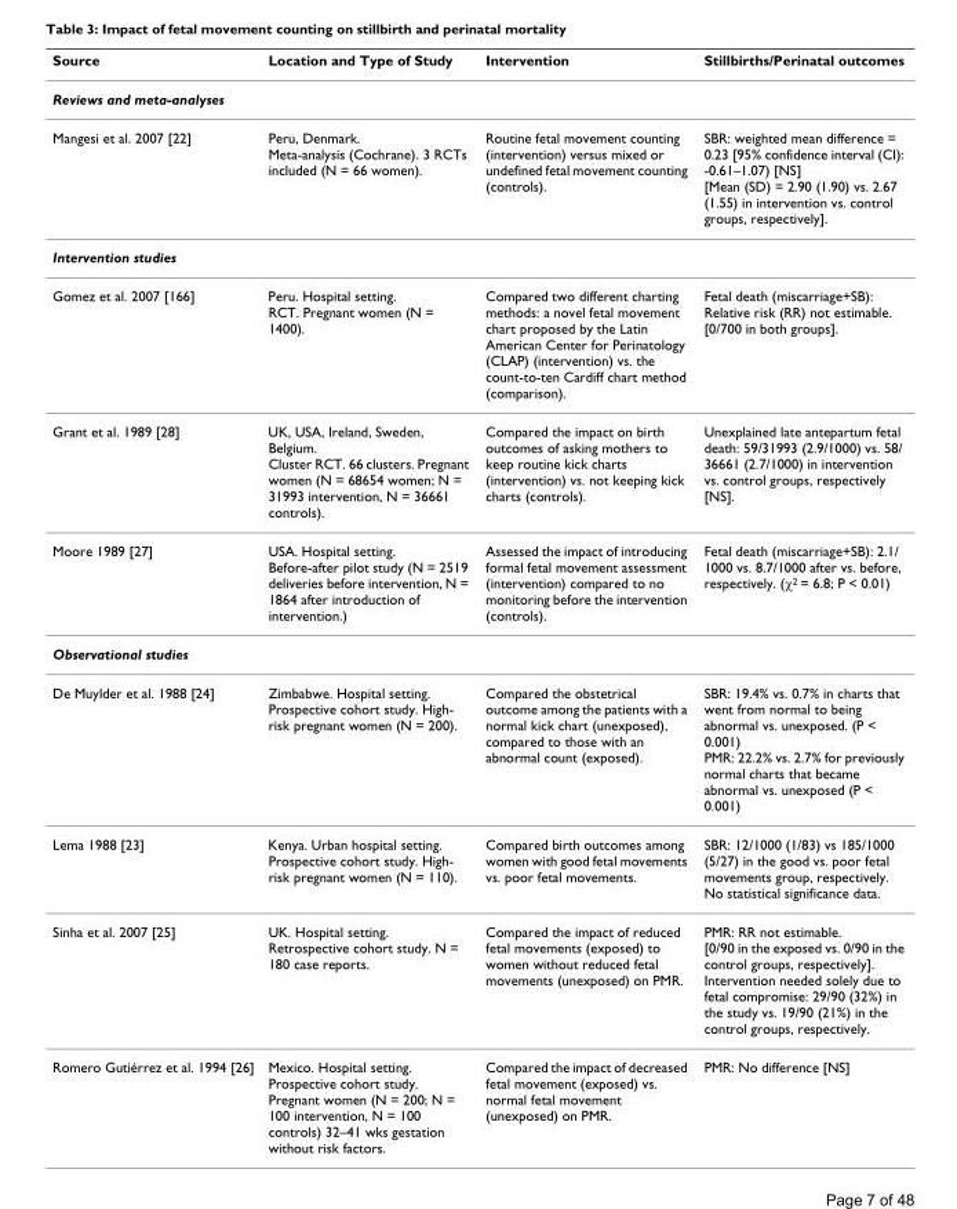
<table><thead><tr><td>Source</td><td>Location and Type of Study</td><td>Intervention</td><td>Stillbirths/Perinatal outcomes</td></tr></thead><tbody><tr><td colspan="4">Reviews and meta-analyses</td></tr><tr><td>Mangesi et al. 2007 [22]</td><td>Peru, Denmark. Meta-analysis (Cochrane). 3 RCTs included (N = 66 women).</td><td>Routine fetal movement counting (intervention) versus mixed or undefined fetal movement counting (controls).</td><td>SBR: weighted mean difference = 0.23 [95% confidence interval (CI): -0.61–1.07) [NS] [Mean (SD) = 2.90 (1.90) vs. 2.67 (1.55) in intervention vs. control groups, respectively].</td></tr><tr><td colspan="4">Intervention studies</td></tr><tr><td>Gomez et al. 2007 [166]</td><td>Peru. Hospital setting. RCT. Pregnant women (N = 1400).</td><td>Compared two different charting methods: a novel fetal movement chart proposed by the Latin American Center for Perinatology (CLAP) (intervention) vs. the count-to-ten Cardiff chart method (comparison).</td><td>Fetal death (miscarriage+SB): Relative risk (RR) not estimable. [0/700 in both groups].</td></tr><tr><td>Grant et al. 1989 [28]</td><td>UK, USA, Ireland, Sweden, Belgium. Cluster RCT. 66 clusters. Pregnant women (N = 68654 women; N = 31993 intervention, N = 36661 controls).</td><td>Compared the impact on birth outcomes of asking mothers to keep routine kick charts (intervention) vs. not keeping kick charts (controls).</td><td>Unexplained late antepartum fetal death: 59/31993 (2.9/1000) vs. 58/ 36661 (2.7/1000) in intervention vs. control groups, respectively [NS].</td></tr><tr><td>Moore 1989 [27]</td><td>USA. Hospital setting. Before-after pilot study (N = 2519 deliveries before intervention, N = 1864 after introduction of intervention.)</td><td>Assessed the impact of introducing formal fetal movement assessment (intervention) compared to no monitoring before the intervention (controls).</td><td>Fetal death (miscarriage+SB): 2.1/ 1000 vs. 8.7/1000 after vs. before, respectively. (χ2 = 6.8; P &lt; 0.01)</td></tr><tr><td colspan="4">Observational studies</td></tr><tr><td>De Muylder et al. 1988 [24]</td><td>Zimbabwe. Hospital setting. Prospective cohort study. High- risk pregnant women (N = 200).</td><td>Compared the obstetrical outcome among the patients with a normal kick chart (unexposed), compared to those with an abnormal count (exposed).</td><td>SBR: 19.4% vs. 0.7% in charts that went from normal to being abnormal vs. unexposed. (P &lt; 0.001) PMR: 22.2% vs. 2.7% for previously normal charts that became abnormal vs. unexposed (P &lt; 0.001)</td></tr><tr><td>Lema 1988 [23]</td><td>Kenya. Urban hospital setting. Prospective cohort study. High- risk pregnant women (N = 110).</td><td>Compared birth outcomes among women with good fetal movements vs. poor fetal movements.</td><td>SBR: 12/1000 (1/83) vs 185/1000 (5/27) in the good vs. poor fetal movements group, respectively. No statistical significance data.</td></tr><tr><td>Sinha et al. 2007 [25]</td><td>UK. Hospital setting. Retrospective cohort study. N = 180 case reports.</td><td>Compared the impact of reduced fetal movements (exposed) to women without reduced fetal movements (unexposed) on PMR.</td><td>PMR: RR not estimable. [0/90 in the exposed vs. 0/90 in the control groups, respectively]. Intervention needed solely due to fetal compromise: 29/90 (32%) in the study vs. 19/90 (21%) in the control groups, respectively.</td></tr><tr><td>Romero Gutiérrez et al. 1994 [26]</td><td>Mexico. Hospital setting. Prospective cohort study. Pregnant women (N = 200; N = 100 intervention, N = 100 controls) 32–41 wks gestation without risk factors.</td><td>Compared the impact of decreased fetal movement (exposed) vs. normal fetal movement (unexposed) on PMR.</td><td>PMR: No difference [NS]</td></tr></tbody></table>